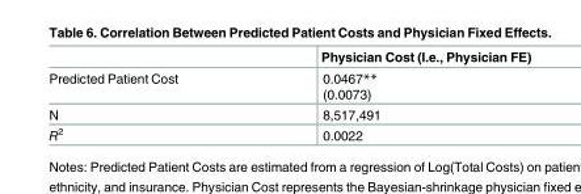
<table><thead><tr><td></td><td>Physician Cost (I.e., Physician FE)</td></tr></thead><tbody><tr><td>Predicted Patient Cost</td><td>0.0467** (0.0073)</td></tr><tr><td>N</td><td>8,517,491</td></tr><tr><td>R<sup>2</sup></td><td>0.0022</td></tr></tbody></table>